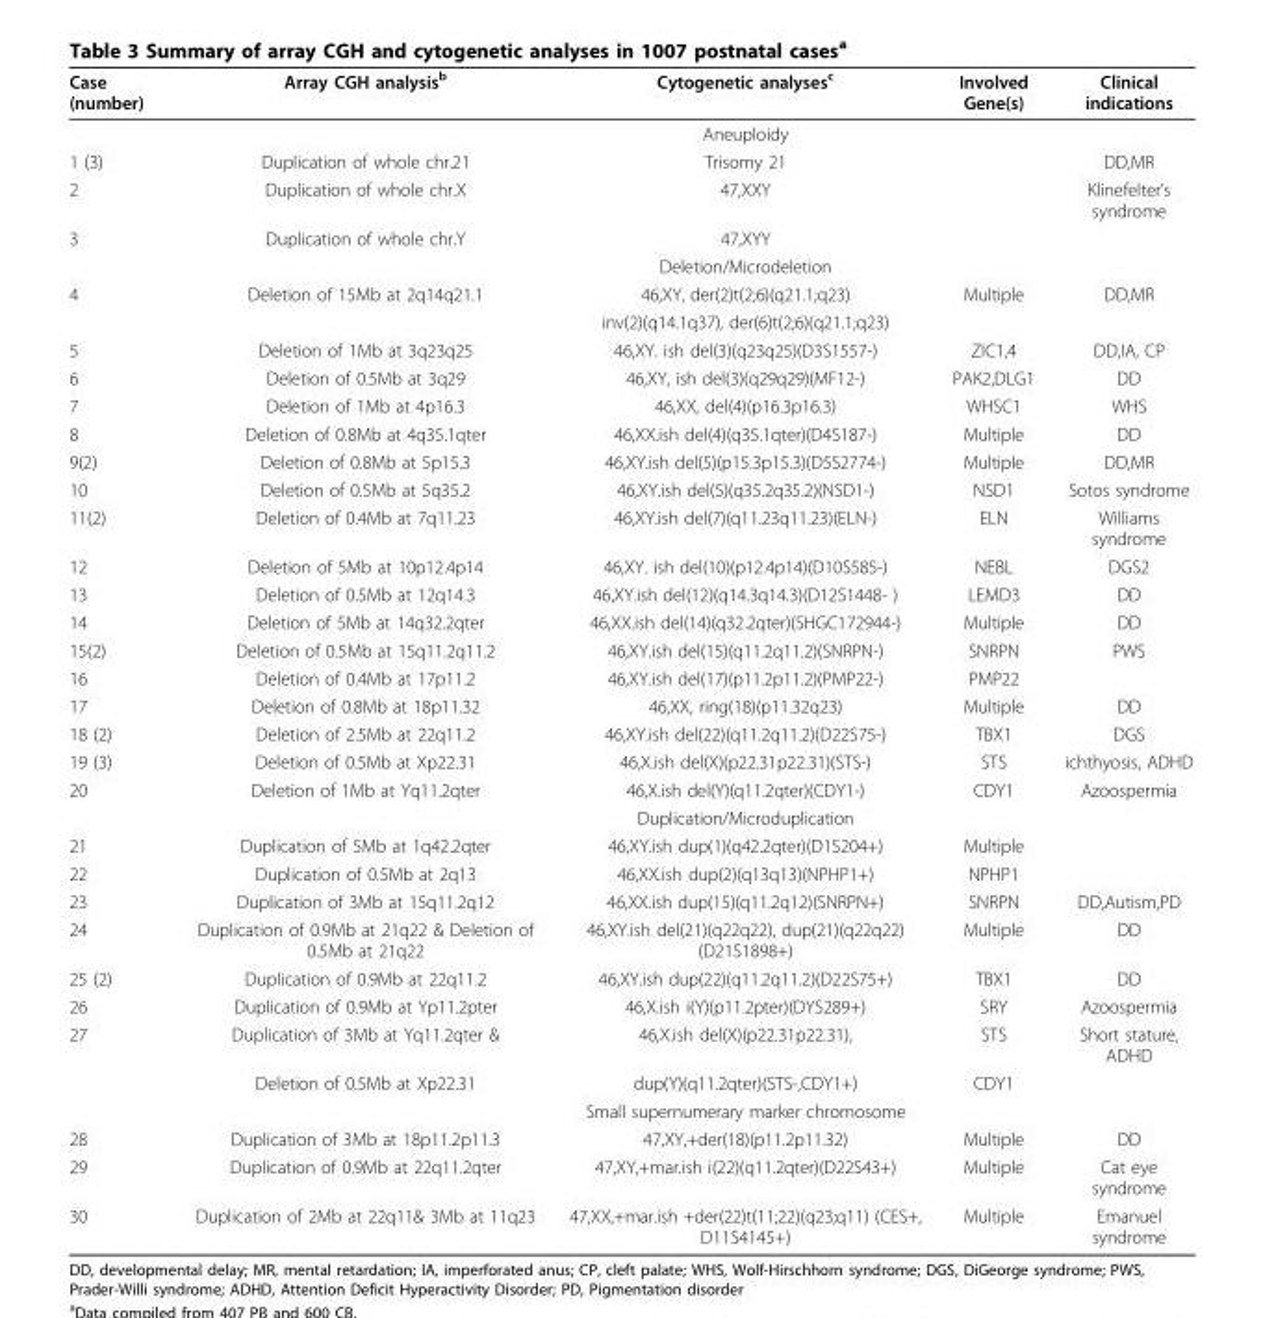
<table><thead><tr><td>Case (number)</td><td>Array CGH analysis<sup>b</sup></td><td>Cytogenetic analyses<sup>c</sup></td><td>Involved Gene(s)</td><td>Clinical indications</td></tr></thead><tbody><tr><td></td><td></td><td>Aneuploidy</td><td></td><td></td></tr><tr><td>1 (3)</td><td>Duplication of whole chr.21</td><td>Trisomy 21</td><td></td><td>DD,MR</td></tr><tr><td>2</td><td>Duplication of whole chr.X</td><td>47,XXY</td><td></td><td>Klinefelter’s syndrome</td></tr><tr><td rowspan="2">3</td><td>Duplication of whole chr.Y</td><td>47,XYY</td><td></td><td></td></tr><tr><td></td><td>Deletion/Microdeletion</td><td></td><td></td></tr><tr><td rowspan="2">4</td><td>Deletion of 15Mb at 2q14q21.1</td><td>46,XY, der(2)t(2;6)(q21.1;q23)</td><td>Multiple</td><td>DD,MR</td></tr><tr><td></td><td>inv(2)(q14.1q37), der(6)t(2;6)(q21.1;q23)</td><td></td><td></td></tr><tr><td>5</td><td>Deletion of 1Mb at 3q23q25</td><td>46,XY. ish del(3)(q23q25)(D3S1557-)</td><td>ZIC1,4</td><td>DD,IA, CP</td></tr><tr><td>6</td><td>Deletion of 0.5Mb at 3q29</td><td>46,XY, ish del(3)(q29q29)(MF12-)</td><td>PAK2,DLG1</td><td>DD</td></tr><tr><td>7</td><td>Deletion of 1Mb at 4p16.3</td><td>46,XX, del(4)(p16.3p16.3)</td><td>WHSC1</td><td>WHS</td></tr><tr><td>8</td><td>Deletion of 0.8Mb at 4q35.1qter</td><td>46,XX.ish del(4)(q35.1qter)(D4S187-)</td><td>Multiple</td><td>DD</td></tr><tr><td>9(2)</td><td>Deletion of 0.8Mb at 5p15.3</td><td>46,XY.ish del(5)(p15.3p15.3)(D5S2774-)</td><td>Multiple</td><td>DD,MR</td></tr><tr><td>10</td><td>Deletion of 0.5Mb at 5q35.2</td><td>46,XY.ish del(5)(q35.2q35.2)(NSD1-)</td><td>NSD1</td><td>Sotos syndrome</td></tr><tr><td>11(2)</td><td>Deletion of 0.4Mb at 7q11.23</td><td>46,XY.ish del(7)(q11.23q11.23)(ELN-)</td><td>ELN</td><td>Williams syndrome</td></tr><tr><td>12</td><td>Deletion of 5Mb at 10p12.4p14</td><td>46,XY. ish del(10)(p12.4p14)(D10S585-)</td><td>NEBL</td><td>DGS2</td></tr><tr><td>13</td><td>Deletion of 0.5Mb at 12q14.3</td><td>46,XY.ish del(12)(q14.3q14.3)(D12S1448- )</td><td>LEMD3</td><td>DD</td></tr><tr><td>14</td><td>Deletion of 5Mb at 14q32.2qter</td><td>46,XX.ish del(14)(q32.2qter)(SHGC172944-)</td><td>Multiple</td><td>DD</td></tr><tr><td>15(2)</td><td>Deletion of 0.5Mb at 15q11.2q11.2</td><td>46,XY.ish del(15)(q11.2q11.2)(SNRPN-)</td><td>SNRPN</td><td>PWS</td></tr><tr><td>16</td><td>Deletion of 0.4Mb at 17p11.2</td><td>46,XY.ish del(17)(p11.2p11.2)(PMP22-)</td><td>PMP22</td><td></td></tr><tr><td>17</td><td>Deletion of 0.8Mb at 18p11.32</td><td>46,XX, ring(18)(p11.32q23)</td><td>Multiple</td><td>DD</td></tr><tr><td>18 (2)</td><td>Deletion of 2.5Mb at 22q11.2</td><td>46,XY.ish del(22)(q11.2q11.2)(D22S75-)</td><td>TBX1</td><td>DGS</td></tr><tr><td>19 (3)</td><td>Deletion of 0.5Mb at Xp22.31</td><td>46,X.ish del(X)(p22.31p22.31)(STS-)</td><td>STS</td><td>ichthyosis, ADHD</td></tr><tr><td rowspan="2">20</td><td>Deletion of 1Mb at Yq11.2qter</td><td>46,X.ish del(Y)(q11.2qter)(CDY1-)</td><td>CDY1</td><td>Azoospermia</td></tr><tr><td></td><td>Duplication/Microduplication</td><td></td><td></td></tr><tr><td>21</td><td>Duplication of 5Mb at 1q42.2qter</td><td>46,XY.ish dup(1)(q42.2qter)(D1S204+)</td><td>Multiple</td><td></td></tr><tr><td>22</td><td>Duplication of 0.5Mb at 2q13</td><td>46,XX.ish dup(2)(q13q13)(NPHP1+)</td><td>NPHP1</td><td></td></tr><tr><td>23</td><td>Duplication of 3Mb at 15q11.2q12</td><td>46,XX.ish dup(15)(q11.2q12)(SNRPN+)</td><td>SNRPN</td><td>DD,Autism,PD</td></tr><tr><td>24</td><td>Duplication of 0.9Mb at 21q22 &amp; Deletion of 0.5Mb at 21q22</td><td>46,XY.ish del(21)(q22q22), dup(21)(q22q22) (D21S1898+)</td><td>Multiple</td><td>DD</td></tr><tr><td>25 (2)</td><td>Duplication of 0.9Mb at 22q11.2</td><td>46,XY.ish dup(22)(q11.2q11.2)(D22S75+)</td><td>TBX1</td><td>DD</td></tr><tr><td>26</td><td>Duplication of 0.9Mb at Yp11.2pter</td><td>46,X.ish i(Y)(p11.2pter)(DYS289+)</td><td>SRY</td><td>Azoospermia</td></tr><tr><td rowspan="3">27</td><td>Duplication of 3Mb at Yq11.2qter &amp;</td><td>46,X.ish del(X)(p22.31p22.31),</td><td>STS</td><td>Short stature, ADHD</td></tr><tr><td>Deletion of 0.5Mb at Xp22.31</td><td>dup(Y)(q11.2qter)(STS-,CDY1+)</td><td>CDY1</td><td></td></tr><tr><td></td><td>Small supernumerary marker chromosome</td><td></td><td></td></tr><tr><td>28</td><td>Duplication of 3Mb at 18p11.2p11.3</td><td>47,XY,+der(18)(p11.2p11.32)</td><td>Multiple</td><td>DD</td></tr><tr><td>29</td><td>Duplication of 0.9Mb at 22q11.2qter</td><td>47,XY,+mar.ish i(22)(q11.2qter)(D22S43+)</td><td>Multiple</td><td>Cat eye syndrome</td></tr><tr><td>30</td><td>Duplication of 2Mb at 22q11&amp; 3Mb at 11q23</td><td>47,XX,+mar.ish +der(22)t(11;22)(q23;q11) (CES+, D11S4145+)</td><td>Multiple</td><td>Emanuel syndrome</td></tr></tbody></table>